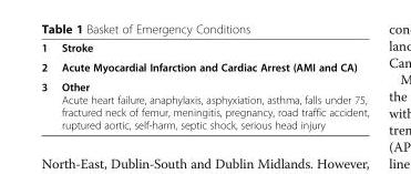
<table><tbody><tr><td>1</td><td>Stroke</td></tr><tr><td>2</td><td>Acute Myocardial Infarction and Cardiac Arrest (AMI and CA)</td></tr><tr><td>3</td><td>Other Acute heart failure, anaphylaxis, asphyxiation, asthma, falls under 75, fractured neck of femur, meningitis, pregnancy, road traffic accident, ruptured aortic, self-harm, septic shock, serious head injury</td></tr></tbody></table>